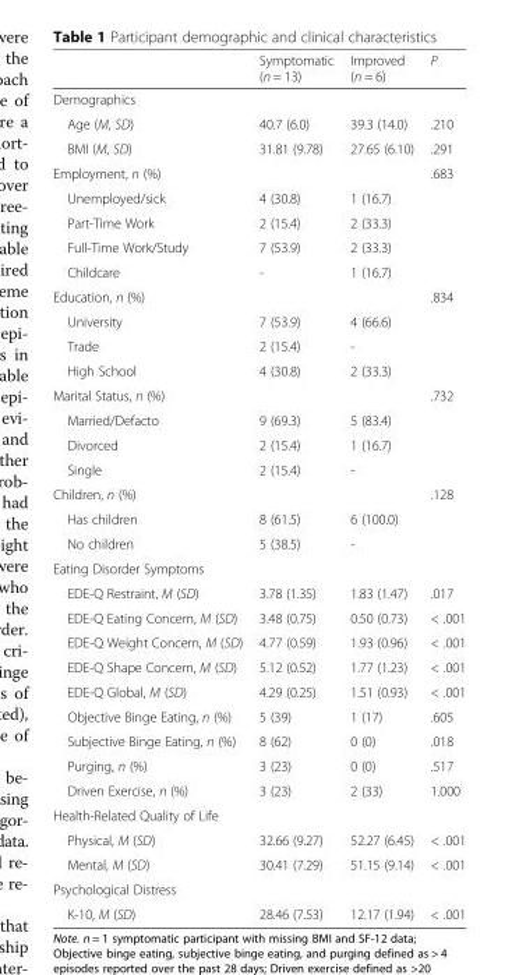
<table><thead><tr><td></td><td>Symptomatic (n = 13)</td><td>Improved (n = 6)</td><td>P</td></tr></thead><tbody><tr><td colspan="4">Demographics</td></tr><tr><td>Age (M, SD)</td><td>40.7 (6.0)</td><td>39.3 (14.0)</td><td>.210</td></tr><tr><td>BMI (M, SD)</td><td>31.81 (9.78)</td><td>27.65 (6.10)</td><td>.291</td></tr><tr><td>Employment, n (%)</td><td></td><td></td><td>.683</td></tr><tr><td>Unemployed/sick</td><td>4 (30.8)</td><td>1 (16.7)</td><td></td></tr><tr><td>Part-Time Work</td><td>2 (15.4)</td><td>2 (33.3)</td><td></td></tr><tr><td>Full-Time Work/Study</td><td>7 (53.9)</td><td>2 (33.3)</td><td></td></tr><tr><td>Childcare</td><td>-</td><td>1 (16.7)</td><td></td></tr><tr><td>Education, n (%)</td><td></td><td></td><td>.834</td></tr><tr><td>University</td><td>7 (53.9)</td><td>4 (66.6)</td><td></td></tr><tr><td>Trade</td><td>2 (15.4)</td><td>-</td><td></td></tr><tr><td>High School</td><td>4 (30.8)</td><td>2 (33.3)</td><td></td></tr><tr><td>Marital Status, n (%)</td><td></td><td></td><td>.732</td></tr><tr><td>Married/Defacto</td><td>9 (69.3)</td><td>5 (83.4)</td><td></td></tr><tr><td>Divorced</td><td>2 (15.4)</td><td>1 (16.7)</td><td></td></tr><tr><td>Single</td><td>2 (15.4)</td><td>-</td><td></td></tr><tr><td>Children, n (%)</td><td></td><td></td><td>.128</td></tr><tr><td>Has children</td><td>8 (61.5)</td><td>6 (100.0)</td><td></td></tr><tr><td>No children</td><td>5 (38.5)</td><td>-</td><td></td></tr><tr><td colspan="4">Eating Disorder Symptoms</td></tr><tr><td>EDE-Q Restraint, M (SD)</td><td>3.78 (1.35)</td><td>1.83 (1.47)</td><td>.017</td></tr><tr><td>EDE-Q Eating Concern, M (SD)</td><td>3.48 (0.75)</td><td>0.50 (0.73)</td><td>&lt; .001</td></tr><tr><td>EDE-Q Weight Concern, M (SD)</td><td>4.77 (0.59)</td><td>1.93 (0.96)</td><td>&lt; .001</td></tr><tr><td>EDE-Q Shape Concern, M (SD)</td><td>5.12 (0.52)</td><td>1.77 (1.23)</td><td>&lt; .001</td></tr><tr><td>EDE-Q Global, M (SD)</td><td>4.29 (0.25)</td><td>1.51 (0.93)</td><td>&lt; .001</td></tr><tr><td>Objective Binge Eating, n (%)</td><td>5 (39)</td><td>1 (17)</td><td>.605</td></tr><tr><td>Subjective Binge Eating, n (%)</td><td>8 (62)</td><td>0 (0)</td><td>.018</td></tr><tr><td>Purging, n (%)</td><td>3 (23)</td><td>0 (0)</td><td>.517</td></tr><tr><td>Driven Exercise, n (%)</td><td>3 (23)</td><td>2 (33)</td><td>1.000</td></tr><tr><td colspan="4">Health-Related Quality of Life</td></tr><tr><td>Physical, M (SD)</td><td>32.66 (9.27)</td><td>52.27 (6.45)</td><td>&lt; .001</td></tr><tr><td>Mental, M (SD)</td><td>30.41 (7.29)</td><td>51.15 (9.14)</td><td>&lt; .001</td></tr><tr><td colspan="4">Psychological Distress</td></tr><tr><td>K-10, M (SD)</td><td>28.46 (7.53)</td><td>12.17 (1.94)</td><td>&lt; .001</td></tr></tbody></table>